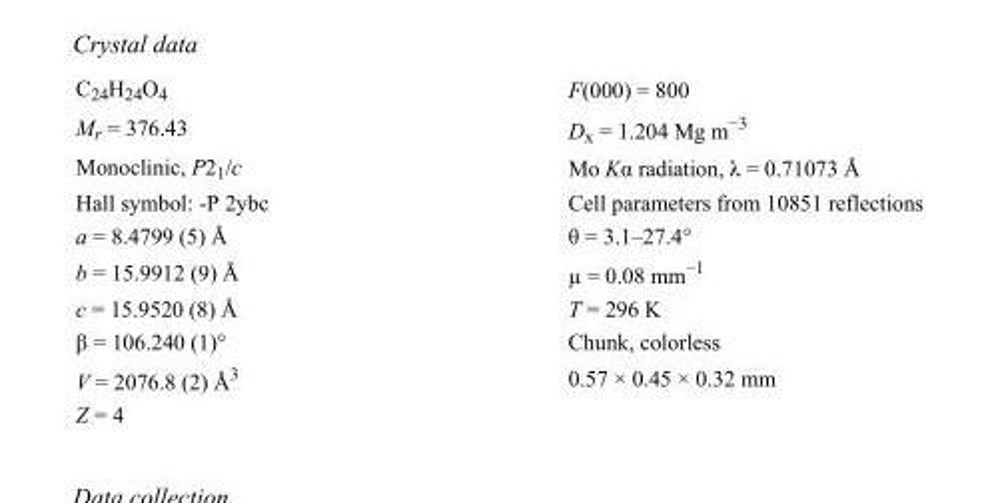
<table><tbody><tr><td>C<sub>24</sub>H<sub>24</sub>O<sub>4</sub></td><td>F(000) = 800</td></tr><tr><td>M<sub>r</sub> = 376.43</td><td>D<sub>x</sub> = 1.204 Mg m<sup>−3</sup></td></tr><tr><td>Monoclinic, P2<sub>1</sub>/c</td><td>Mo Kα radiation, λ = 0.71073 Å</td></tr><tr><td>Hall symbol: -P 2ybc</td><td>Cell parameters from 10851 reflections</td></tr><tr><td>a = 8.4799 (5) Å</td><td>θ = 3.1–27.4°</td></tr><tr><td>b = 15.9912 (9) Å</td><td>µ = 0.08 mm<sup>−1</sup></td></tr><tr><td>c = 15.9520 (8) Å</td><td>T = 296 K</td></tr><tr><td>β = 106.240 (1)°</td><td>Chunk, colorless</td></tr><tr><td>V = 2076.8 (2) Å<sup>3</sup></td><td>0.57 × 0.45 × 0.32 mm</td></tr><tr><td>Z = 4</td><td></td></tr></tbody></table>